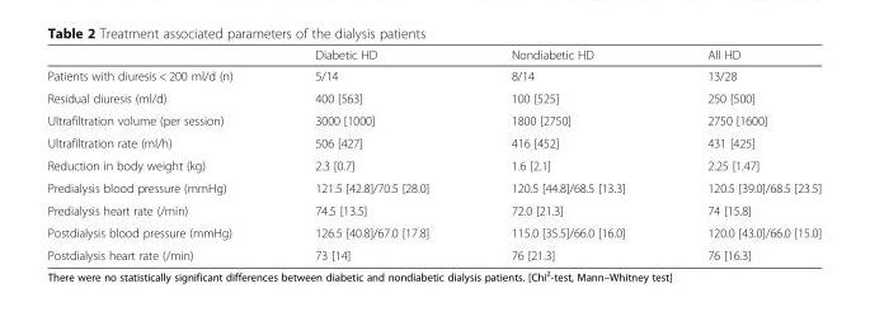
<table><thead><tr><td></td><td>Diabetic HD</td><td>Nondiabetic HD</td><td>All HD</td></tr></thead><tbody><tr><td>Patients with diuresis &lt; 200 ml/d (n)</td><td>5/14</td><td>8/14</td><td>13/28</td></tr><tr><td>Residual diuresis (ml/d)</td><td>400 [563]</td><td>100 [525]</td><td>250 [500]</td></tr><tr><td>Ultrafiltration volume (per session)</td><td>3000 [1000]</td><td>1800 [2750]</td><td>2750 [1600]</td></tr><tr><td>Ultrafiltration rate (ml/h)</td><td>506 [427]</td><td>416 [452]</td><td>431 [425]</td></tr><tr><td>Reduction in body weight (kg)</td><td>2.3 [0.7]</td><td>1.6 [2.1]</td><td>2.25 [1.47]</td></tr><tr><td>Predialysis blood pressure (mmHg)</td><td>121.5 [42.8]/70.5 [28.0]</td><td>120.5 [44.8]/68.5 [13.3]</td><td>120.5 [39.0]/68.5 [23.5]</td></tr><tr><td>Predialysis heart rate (/min)</td><td>74.5 [13.5]</td><td>72.0 [21.3]</td><td>74 [15.8]</td></tr><tr><td>Postdialysis blood pressure (mmHg)</td><td>126.5 [40.8]/67.0 [17.8]</td><td>115.0 [35.5]/66.0 [16.0]</td><td>120.0 [43.0]/66.0 [15.0]</td></tr><tr><td>Postdialysis heart rate (/min)</td><td>73 [14]</td><td>76 [21.3]</td><td>76 [16.3]</td></tr></tbody></table>